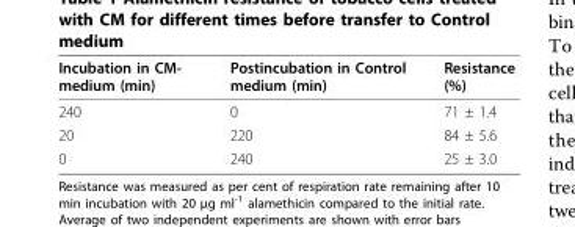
<table><thead><tr><td>Incubation in CM- medium (min)</td><td>Postincubation in Control medium (min)</td><td>Resistance (%)</td></tr></thead><tbody><tr><td>240</td><td>0</td><td>71 ± 1.4</td></tr><tr><td>20</td><td>220</td><td>84 ± 5.6</td></tr><tr><td>0</td><td>240</td><td>25 ± 3.0</td></tr></tbody></table>